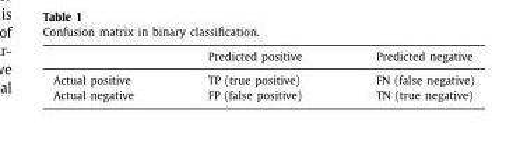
<table><thead><tr><td></td><td>Predicted positive</td><td>Predicted negative</td></tr></thead><tbody><tr><td>Actual positive</td><td>TP (true positive)</td><td>FN (false negative)</td></tr><tr><td>Actual negative</td><td>FP (false positive)</td><td>TN (true negative)</td></tr></tbody></table>